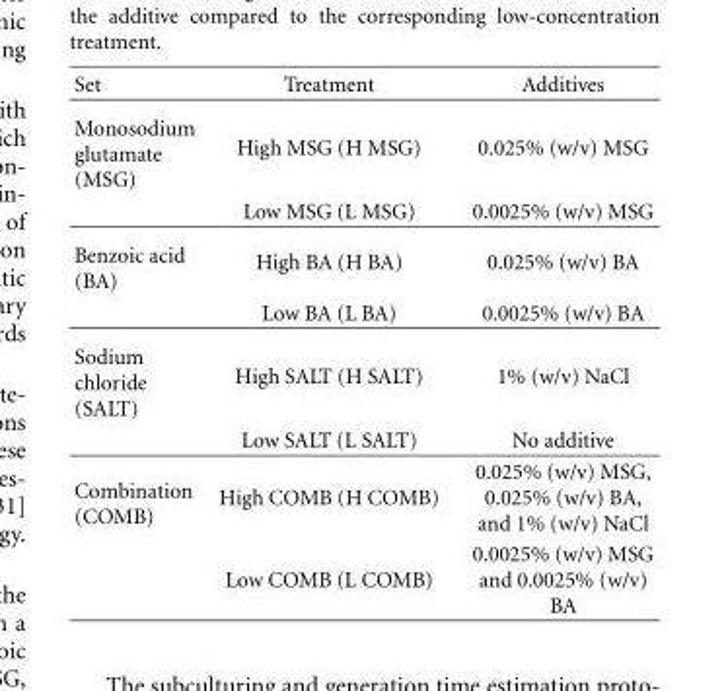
<table><thead><tr><td>Set</td><td>Treatment</td><td>Additives</td></tr></thead><tbody><tr><td rowspan="2">Monosodium glutamate (MSG)</td><td>High MSG (H MSG)</td><td>0.025% (w/v) MSG</td></tr><tr><td>Low MSG (L MSG)</td><td>0.0025% (w/v) MSG</td></tr><tr><td rowspan="2">Benzoic acid (BA)</td><td>High BA (H BA)</td><td>0.025% (w/v) BA</td></tr><tr><td>Low BA (L BA)</td><td>0.0025% (w/v) BA</td></tr><tr><td rowspan="2">Sodium chloride (SALT)</td><td>High SALT (H SALT)</td><td>1% (w/v) NaCl</td></tr><tr><td>Low SALT (L SALT)</td><td>No additive</td></tr><tr><td rowspan="2">Combination (COMB)</td><td>High COMB (H COMB)</td><td>0.025% (w/v) MSG, 0.025% (w/v) BA, and 1% (w/v) NaCl</td></tr><tr><td>Low COMB (L COMB)</td><td>0.0025% (w/v) MSG and 0.0025% (w/v) BA</td></tr></tbody></table>